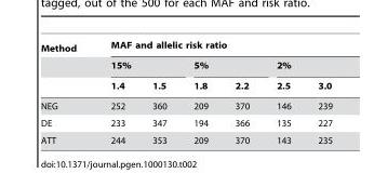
<table><thead><tr><td rowspan="3">Method</td><td colspan="6">MAF and allelic risk ratio</td></tr><tr><td colspan="2">15%</td><td colspan="2">5%</td><td colspan="2">2%</td></tr><tr><td>1.4</td><td>1.5</td><td>1.8</td><td>2.2</td><td>2.5</td><td>3.0</td></tr></thead><tbody><tr><td>NEG</td><td>252</td><td>360</td><td>209</td><td>370</td><td>146</td><td>239</td></tr><tr><td>DE</td><td>233</td><td>347</td><td>194</td><td>366</td><td>135</td><td>227</td></tr><tr><td>ATT</td><td>244</td><td>353</td><td>209</td><td>370</td><td>143</td><td>235</td></tr></tbody></table>